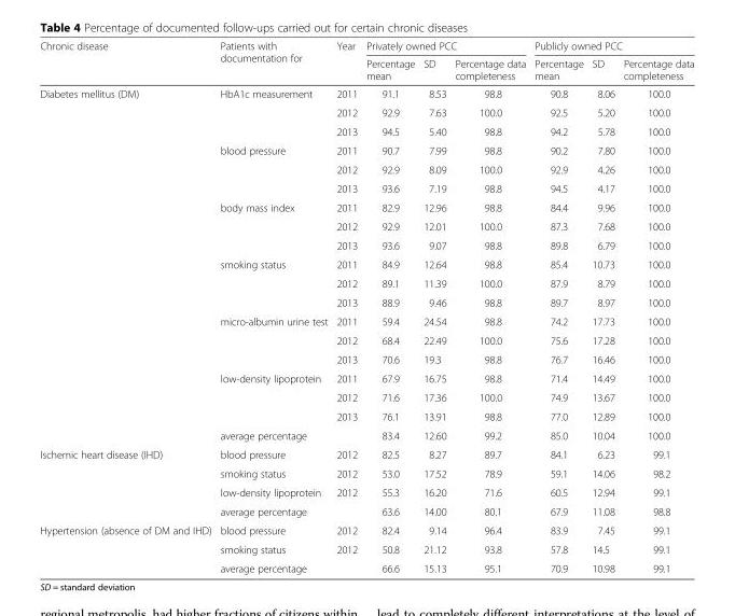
<table><thead><tr><td rowspan="2">Chronic disease</td><td rowspan="2">Patients with documentation for</td><td rowspan="2">Year</td><td colspan="3">Privately owned PCC</td><td colspan="3">Publicly owned PCC</td></tr><tr><td>Percentage mean</td><td>SD</td><td>Percentage data completeness</td><td>Percentage mean</td><td>SD</td><td>Percentage data completeness</td></tr></thead><tbody><tr><td rowspan="19">Diabetes mellitus (DM)</td><td rowspan="3">HbA1c measurement</td><td>2011</td><td>91.1</td><td>8.53</td><td>98.8</td><td>90.8</td><td>8.06</td><td>100.0</td></tr><tr><td>2012</td><td>92.9</td><td>7.63</td><td>100.0</td><td>92.5</td><td>5.20</td><td>100.0</td></tr><tr><td>2013</td><td>94.5</td><td>5.40</td><td>98.8</td><td>94.2</td><td>5.78</td><td>100.0</td></tr><tr><td rowspan="3">blood pressure</td><td>2011</td><td>90.7</td><td>7.99</td><td>98.8</td><td>90.2</td><td>7.80</td><td>100.0</td></tr><tr><td>2012</td><td>92.9</td><td>8.09</td><td>100.0</td><td>92.9</td><td>4.26</td><td>100.0</td></tr><tr><td>2013</td><td>93.6</td><td>7.19</td><td>98.8</td><td>94.5</td><td>4.17</td><td>100.0</td></tr><tr><td rowspan="3">body mass index</td><td>2011</td><td>82.9</td><td>12.96</td><td>98.8</td><td>84.4</td><td>9.96</td><td>100.0</td></tr><tr><td>2012</td><td>92.9</td><td>12.01</td><td>100.0</td><td>87.3</td><td>7.68</td><td>100.0</td></tr><tr><td>2013</td><td>93.6</td><td>9.07</td><td>98.8</td><td>89.8</td><td>6.79</td><td>100.0</td></tr><tr><td rowspan="3">smoking status</td><td>2011</td><td>84.9</td><td>12.64</td><td>98.8</td><td>85.4</td><td>10.73</td><td>100.0</td></tr><tr><td>2012</td><td>89.1</td><td>11.39</td><td>100.0</td><td>87.9</td><td>8.79</td><td>100.0</td></tr><tr><td>2013</td><td>88.9</td><td>9.46</td><td>98.8</td><td>89.7</td><td>8.97</td><td>100.0</td></tr><tr><td rowspan="3">micro-albumin urine test</td><td>2011</td><td>59.4</td><td>24.54</td><td>98.8</td><td>74.2</td><td>17.73</td><td>100.0</td></tr><tr><td>2012</td><td>68.4</td><td>22.49</td><td>100.0</td><td>75.6</td><td>17.28</td><td>100.0</td></tr><tr><td>2013</td><td>70.6</td><td>19.3</td><td>98.8</td><td>76.7</td><td>16.46</td><td>100.0</td></tr><tr><td rowspan="3">low-density lipoprotein</td><td>2011</td><td>67.9</td><td>16.75</td><td>98.8</td><td>71.4</td><td>14.49</td><td>100.0</td></tr><tr><td>2012</td><td>71.6</td><td>17.36</td><td>100.0</td><td>74.9</td><td>13.67</td><td>100.0</td></tr><tr><td>2013</td><td>76.1</td><td>13.91</td><td>98.8</td><td>77.0</td><td>12.89</td><td>100.0</td></tr><tr><td colspan="2">average percentage</td><td>83.4</td><td>12.60</td><td>99.2</td><td>85.0</td><td>10.04</td><td>100.0</td></tr><tr><td rowspan="4">Ischemic heart disease (IHD)</td><td>blood pressure</td><td>2012</td><td>82.5</td><td>8.27</td><td>89.7</td><td>84.1</td><td>6.23</td><td>99.1</td></tr><tr><td>smoking status</td><td>2012</td><td>53.0</td><td>17.52</td><td>78.9</td><td>59.1</td><td>14.06</td><td>98.2</td></tr><tr><td>low-density lipoprotein</td><td>2012</td><td>55.3</td><td>16.20</td><td>71.6</td><td>60.5</td><td>12.94</td><td>99.1</td></tr><tr><td colspan="2">average percentage</td><td>63.6</td><td>14.00</td><td>80.1</td><td>67.9</td><td>11.08</td><td>98.8</td></tr><tr><td rowspan="3">Hypertension (absence of DM and IHD)</td><td>blood pressure</td><td>2012</td><td>82.4</td><td>9.14</td><td>96.4</td><td>83.9</td><td>7.45</td><td>99.1</td></tr><tr><td>smoking status</td><td>2012</td><td>50.8</td><td>21.12</td><td>93.8</td><td>57.8</td><td>14.5</td><td>99.1</td></tr><tr><td colspan="2">average percentage</td><td>66.6</td><td>15.13</td><td>95.1</td><td>70.9</td><td>10.98</td><td>99.1</td></tr></tbody></table>